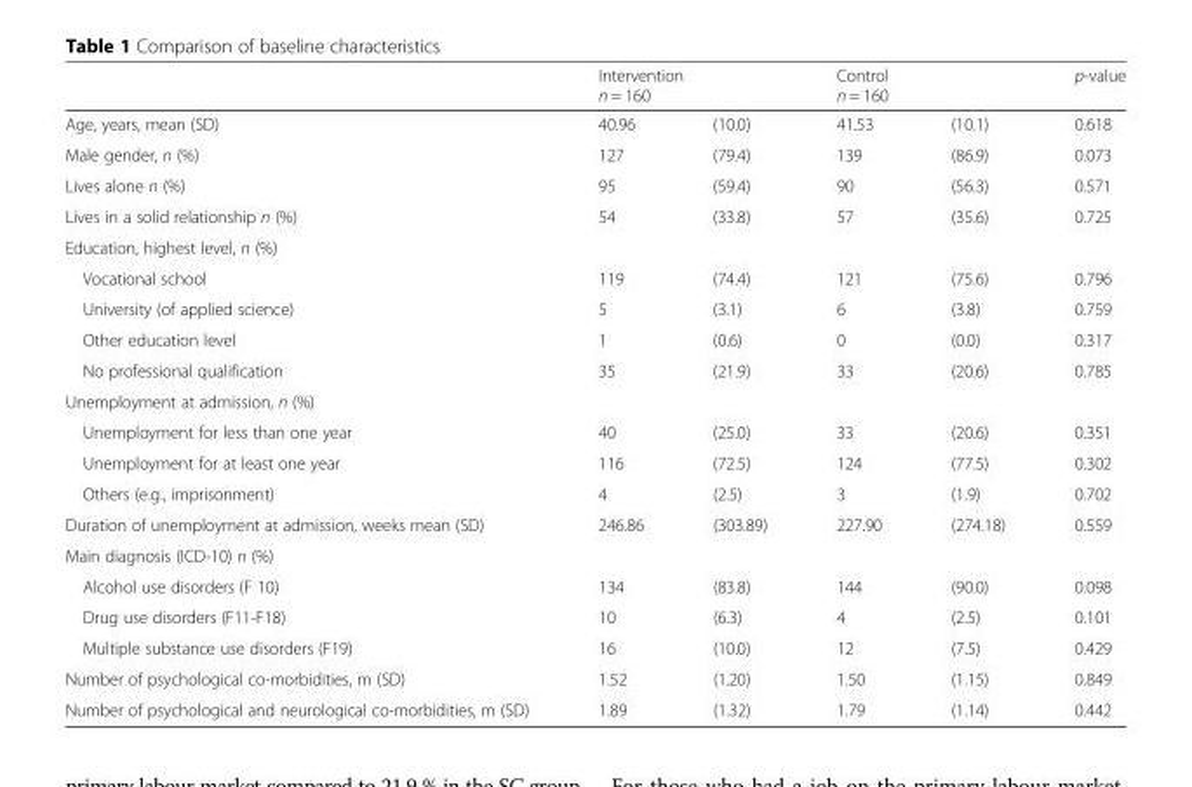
<table><thead><tr><td rowspan="2">Age, years, mean (SD)</td><td colspan="2">Intervention n = 160</td><td colspan="2">Control n = 160</td><td rowspan="2">p-value 0.618</td></tr><tr><td>40.96</td><td>(10.0)</td><td>41.53</td><td>(10.1)</td></tr></thead><tbody><tr><td>Male gender, n (%)</td><td>127</td><td>(79.4)</td><td>139</td><td>(86.9)</td><td>0.073</td></tr><tr><td>Lives alone n (%)</td><td>95</td><td>(59.4)</td><td>90</td><td>(56.3)</td><td>0.571</td></tr><tr><td>Lives in a solid relationship n (%)</td><td>54</td><td>(33.8)</td><td>57</td><td>(35.6)</td><td>0.725</td></tr><tr><td colspan="6">Education, highest level, n (%)</td></tr><tr><td>Vocational school</td><td>119</td><td>(74.4)</td><td>121</td><td>(75.6)</td><td>0.796</td></tr><tr><td>University (of applied science)</td><td>5</td><td>(3.1)</td><td>6</td><td>(3.8)</td><td>0.759</td></tr><tr><td>Other education level</td><td>1</td><td>(0.6)</td><td>0</td><td>(0.0)</td><td>0.317</td></tr><tr><td>No professional qualification</td><td>35</td><td>(21.9)</td><td>33</td><td>(20.6)</td><td>0.785</td></tr><tr><td colspan="6">Unemployment at admission, n (%)</td></tr><tr><td>Unemployment for less than one year</td><td>40</td><td>(25.0)</td><td>33</td><td>(20.6)</td><td>0.351</td></tr><tr><td>Unemployment for at least one year</td><td>116</td><td>(72.5)</td><td>124</td><td>(77.5)</td><td>0.302</td></tr><tr><td>Others (e.g., imprisonment)</td><td>4</td><td>(2.5)</td><td>3</td><td>(1.9)</td><td>0.702</td></tr><tr><td>Duration of unemployment at admission, weeks mean (SD)</td><td>246.86</td><td>(303.89)</td><td>227.90</td><td>(274.18)</td><td>0.559</td></tr><tr><td colspan="6">Main diagnosis (ICD-10) n (%)</td></tr><tr><td>Alcohol use disorders (F 10)</td><td>134</td><td>(83.8)</td><td>144</td><td>(90.0)</td><td>0.098</td></tr><tr><td>Drug use disorders (F11-F18)</td><td>10</td><td>(6.3)</td><td>4</td><td>(2.5)</td><td>0.101</td></tr><tr><td>Multiple substance use disorders (F19)</td><td>16</td><td>(10.0)</td><td>12</td><td>(7.5)</td><td>0.429</td></tr><tr><td>Number of psychological co-morbidities, m (SD)</td><td>1.52</td><td>(1.20)</td><td>1.50</td><td>(1.15)</td><td>0.849</td></tr><tr><td>Number of psychological and neurological co-morbidities, m (SD)</td><td>1.89</td><td>(1.32)</td><td>1.79</td><td>(1.14)</td><td>0.442</td></tr></tbody></table>